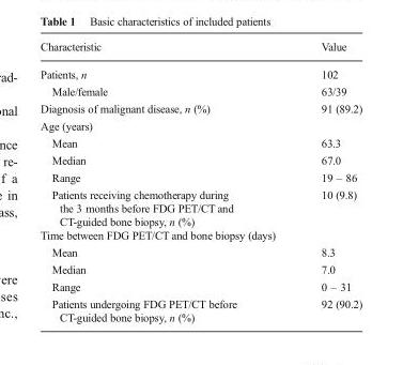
<table><thead><tr><td>Characteristic</td><td>Value</td></tr></thead><tbody><tr><td>Patients, n</td><td>102</td></tr><tr><td>Male/female</td><td>63/39</td></tr><tr><td>Diagnosis of malignant disease, n (%)</td><td>91 (89.2)</td></tr><tr><td colspan="2">Age (years)</td></tr><tr><td>Mean</td><td>63.3</td></tr><tr><td>Median</td><td>67.0</td></tr><tr><td>Range</td><td>19 – 86</td></tr><tr><td>Patients receiving chemotherapy during the 3 months before FDG PET/CT and CT-guided bone biopsy, n (%)</td><td>10 (9.8)</td></tr><tr><td colspan="2">Time between FDG PET/CT and bone biopsy (days)</td></tr><tr><td>Mean</td><td>8.3</td></tr><tr><td>Median</td><td>7.0</td></tr><tr><td>Range</td><td>0 – 31</td></tr><tr><td>Patients undergoing FDG PET/CT before CT-guided bone biopsy, n (%)</td><td>92 (90.2)</td></tr></tbody></table>